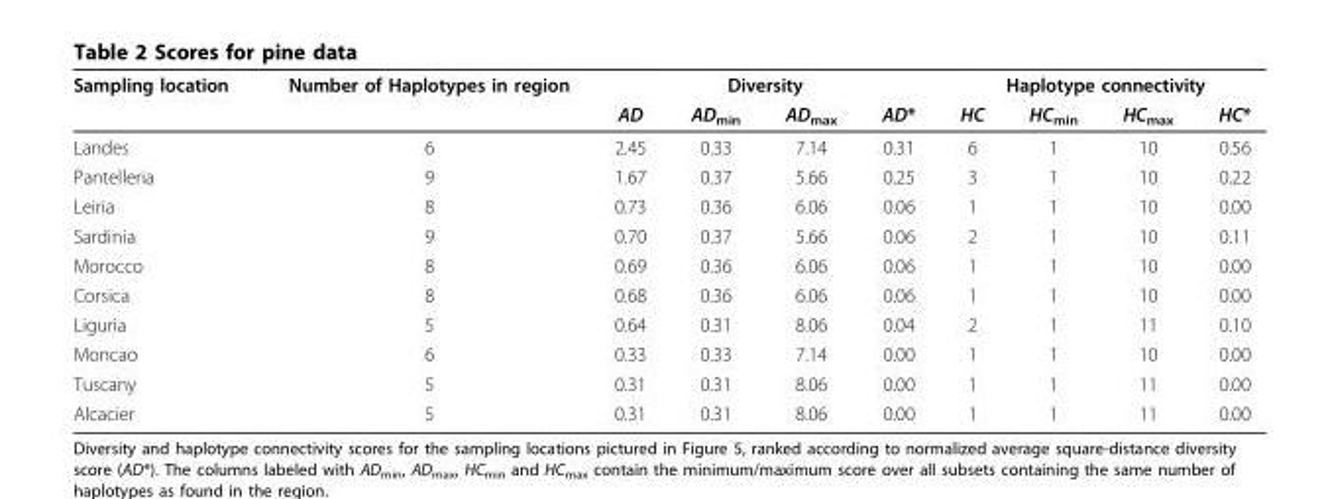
<table><thead><tr><td rowspan="2">Sampling location</td><td rowspan="2">Number of Haplotypes in region</td><td colspan="4">Diversity</td><td colspan="4">Haplotype connectivity</td></tr><tr><td>AD</td><td>AD<sub>min</sub></td><td>AD<sub>max</sub></td><td>AD*</td><td>HC</td><td>HC<sub>min</sub></td><td>HC<sub>max</sub></td><td>HC*</td></tr></thead><tbody><tr><td>Landes</td><td>6</td><td>2.45</td><td>0.33</td><td>7.14</td><td>0.31</td><td>6</td><td>1</td><td>10</td><td>0.56</td></tr><tr><td>Pantelleria</td><td>9</td><td>1.67</td><td>0.37</td><td>5.66</td><td>0.25</td><td>3</td><td>1</td><td>10</td><td>0.22</td></tr><tr><td>Leiria</td><td>8</td><td>0.73</td><td>0.36</td><td>6.06</td><td>0.06</td><td>1</td><td>1</td><td>10</td><td>0.00</td></tr><tr><td>Sardinia</td><td>9</td><td>0.70</td><td>0.37</td><td>5.66</td><td>0.06</td><td>2</td><td>1</td><td>10</td><td>0.11</td></tr><tr><td>Morocco</td><td>8</td><td>0.69</td><td>0.36</td><td>6.06</td><td>0.06</td><td>1</td><td>1</td><td>10</td><td>0.00</td></tr><tr><td>Corsica</td><td>8</td><td>0.68</td><td>0.36</td><td>6.06</td><td>0.06</td><td>1</td><td>1</td><td>10</td><td>0.00</td></tr><tr><td>Liguria</td><td>5</td><td>0.64</td><td>0.31</td><td>8.06</td><td>0.04</td><td>2</td><td>1</td><td>11</td><td>0.10</td></tr><tr><td>Moncao</td><td>6</td><td>0.33</td><td>0.33</td><td>7.14</td><td>0.00</td><td>1</td><td>1</td><td>10</td><td>0.00</td></tr><tr><td>Tuscany</td><td>5</td><td>0.31</td><td>0.31</td><td>8.06</td><td>0.00</td><td>1</td><td>1</td><td>11</td><td>0.00</td></tr><tr><td>Alcacier</td><td>5</td><td>0.31</td><td>0.31</td><td>8.06</td><td>0.00</td><td>1</td><td>1</td><td>11</td><td>0.00</td></tr></tbody></table>